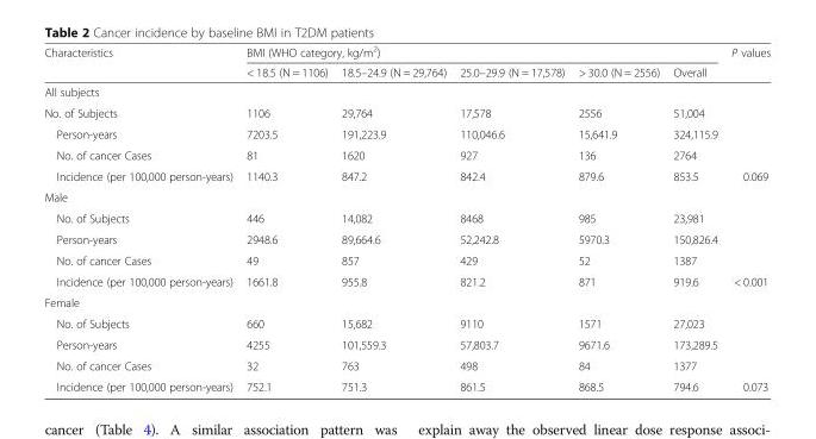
<table><thead><tr><td rowspan="2">Characteristics</td><td colspan="5">BMI (WHO category, kg/m<sup>2</sup>)</td><td rowspan="2">P values</td></tr><tr><td>&lt; 18.5 (N = 1106)</td><td>18.5–24.9 (N = 29,764)</td><td>25.0–29.9 (N = 17,578)</td><td>&gt; 30.0 (N = 2556)</td><td>Overall</td></tr></thead><tbody><tr><td colspan="7">All subjects</td></tr><tr><td>No. of Subjects</td><td>1106</td><td>29,764</td><td>17,578</td><td>2556</td><td>51,004</td><td rowspan="3"></td></tr><tr><td>Person-years</td><td>7203.5</td><td>191,223.9</td><td>110,046.6</td><td>15,641.9</td><td>324,115.9</td></tr><tr><td>No. of cancer Cases</td><td>81</td><td>1620</td><td>927</td><td>136</td><td>2764</td></tr><tr><td>Incidence (per 100,000 person-years)</td><td>1140.3</td><td>847.2</td><td>842.4</td><td>879.6</td><td>853.5</td><td>0.069</td></tr><tr><td colspan="7">Male</td></tr><tr><td>No. of Subjects</td><td>446</td><td>14,082</td><td>8468</td><td>985</td><td>23,981</td><td rowspan="3"></td></tr><tr><td>Person-years</td><td>2948.6</td><td>89,664.6</td><td>52,242.8</td><td>5970.3</td><td>150,826.4</td></tr><tr><td>No. of cancer Cases</td><td>49</td><td>857</td><td>429</td><td>52</td><td>1387</td></tr><tr><td>Incidence (per 100,000 person-years)</td><td>1661.8</td><td>955.8</td><td>821.2</td><td>871</td><td>919.6</td><td>&lt; 0.001</td></tr><tr><td colspan="7">Female</td></tr><tr><td>No. of Subjects</td><td>660</td><td>15,682</td><td>9110</td><td>1571</td><td>27,023</td><td rowspan="3"></td></tr><tr><td>Person-years</td><td>4255</td><td>101,559.3</td><td>57,803.7</td><td>9671.6</td><td>173,289.5</td></tr><tr><td>No. of cancer Cases</td><td>32</td><td>763</td><td>498</td><td>84</td><td>1377</td></tr><tr><td>Incidence (per 100,000 person-years)</td><td>752.1</td><td>751.3</td><td>861.5</td><td>868.5</td><td>794.6</td><td>0.073</td></tr></tbody></table>